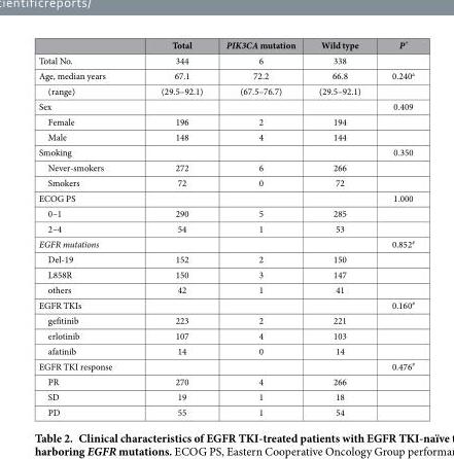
<table><thead><tr><td></td><td>Total</td><td>PIK3CA mutation</td><td>Wild type</td><td>P*</td></tr></thead><tbody><tr><td>Total No.</td><td>344</td><td>6</td><td>338</td><td></td></tr><tr><td>Age, median years</td><td>67.1</td><td>72.2</td><td>66.8</td><td>0.240<sup>a</sup></td></tr><tr><td>(range)</td><td>(29.5–92.1)</td><td>(67.5–76.7)</td><td>(29.5–92.1)</td><td></td></tr><tr><td>Sex</td><td></td><td></td><td></td><td>0.409</td></tr><tr><td>Female</td><td>196</td><td>2</td><td>194</td><td></td></tr><tr><td>Male</td><td>148</td><td>4</td><td>144</td><td></td></tr><tr><td>Smoking</td><td></td><td></td><td></td><td>0.350</td></tr><tr><td>Never-smokers</td><td>272</td><td>6</td><td>266</td><td></td></tr><tr><td>Smokers</td><td>72</td><td>0</td><td>72</td><td></td></tr><tr><td>ECOG PS</td><td></td><td></td><td></td><td>1.000</td></tr><tr><td>0–1</td><td>290</td><td>5</td><td>285</td><td></td></tr><tr><td>2–4</td><td>54</td><td>1</td><td>53</td><td></td></tr><tr><td>EGFR mutations</td><td></td><td></td><td></td><td>0.852#</td></tr><tr><td>Del-19</td><td>152</td><td>2</td><td>150</td><td></td></tr><tr><td>L858R</td><td>150</td><td>3</td><td>147</td><td></td></tr><tr><td>others</td><td>42</td><td>1</td><td>41</td><td></td></tr><tr><td>EGFR TKIs</td><td></td><td></td><td></td><td>0.160#</td></tr><tr><td>gefitinib</td><td>223</td><td>2</td><td>221</td><td></td></tr><tr><td>erlotinib</td><td>107</td><td>4</td><td>103</td><td></td></tr><tr><td>afatinib</td><td>14</td><td>0</td><td>14</td><td></td></tr><tr><td>EGFR TKI response</td><td></td><td></td><td></td><td>0.476#</td></tr><tr><td>PR</td><td>270</td><td>4</td><td>266</td><td></td></tr><tr><td>SD</td><td>19</td><td>1</td><td>18</td><td></td></tr><tr><td>PD</td><td>55</td><td>1</td><td>54</td><td></td></tr></tbody></table>